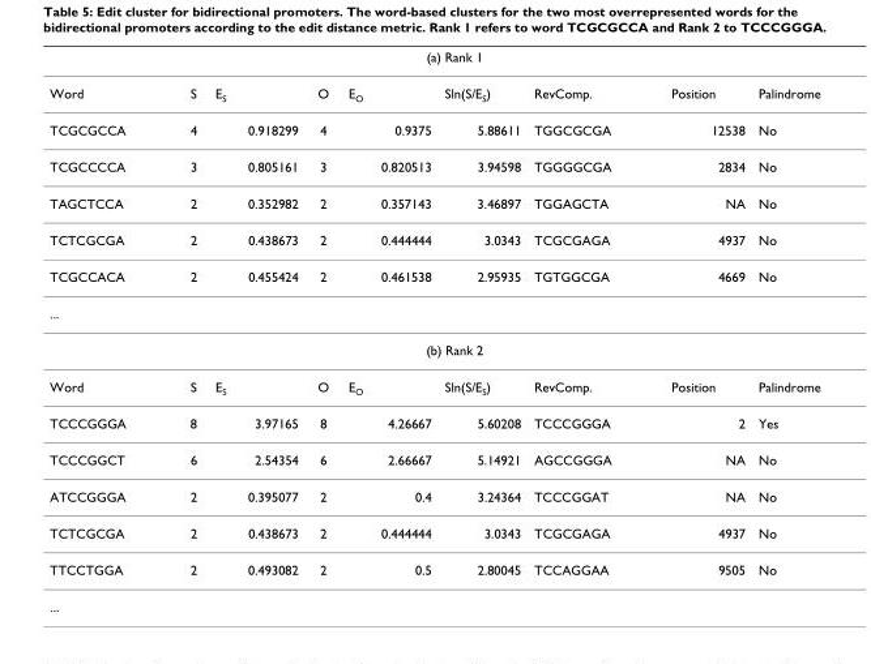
<table><thead><tr><td colspan="9">(a) Rank 1</td></tr><tr><td>Word</td><td>S</td><td>ES</td><td>O</td><td>EO</td><td>Sln(S/ES)</td><td>RevComp.</td><td>Position</td><td>Palindrome</td></tr></thead><tbody><tr><td>TCGCGCCA</td><td>4</td><td>0.918299</td><td>4</td><td>0.9375</td><td>5.88611</td><td>TGGCGCGA</td><td>12538</td><td>No</td></tr><tr><td>TCGCCCCA</td><td>3</td><td>0.805161</td><td>3</td><td>0.820513</td><td>3.94598</td><td>TGGGGCGA</td><td>2834</td><td>No</td></tr><tr><td>TAGCTCCA</td><td>2</td><td>0.352982</td><td>2</td><td>0.357143</td><td>3.46897</td><td>TGGAGCTA</td><td>NA</td><td>No</td></tr><tr><td>TCTCGCGA</td><td>2</td><td>0.438673</td><td>2</td><td>0.444444</td><td>3.0343</td><td>TCGCGAGA</td><td>4937</td><td>No</td></tr><tr><td>TCGCCACA</td><td>2</td><td>0.455424</td><td>2</td><td>0.461538</td><td>2.95935</td><td>TGTGGCGA</td><td>4669</td><td>No</td></tr><tr><td colspan="9">...</td></tr><tr><td colspan="9">(b) Rank 2</td></tr><tr><td>Word</td><td>S</td><td>ES</td><td>O</td><td>EO</td><td>Sln(S/ES)</td><td>RevComp.</td><td>Position</td><td>Palindrome</td></tr><tr><td>TCCCGGGA</td><td>8</td><td>3.97165</td><td>8</td><td>4.26667</td><td>5.60208</td><td>TCCCGGGA</td><td>2</td><td>Yes</td></tr><tr><td>TCCCGGCT</td><td>6</td><td>2.54354</td><td>6</td><td>2.66667</td><td>5.14921</td><td>AGCCGGGA</td><td>NA</td><td>No</td></tr><tr><td>ATCCGGGA</td><td>2</td><td>0.395077</td><td>2</td><td>0.4</td><td>3.24364</td><td>TCCCGGAT</td><td>NA</td><td>No</td></tr><tr><td>TCTCGCGA</td><td>2</td><td>0.438673</td><td>2</td><td>0.444444</td><td>3.0343</td><td>TCGCGAGA</td><td>4937</td><td>No</td></tr><tr><td>TTCCTGGA</td><td>2</td><td>0.493082</td><td>2</td><td>0.5</td><td>2.80045</td><td>TCCAGGAA</td><td>9505</td><td>No</td></tr><tr><td>...</td><td></td><td></td><td></td><td></td><td></td><td></td><td></td><td></td></tr></tbody></table>